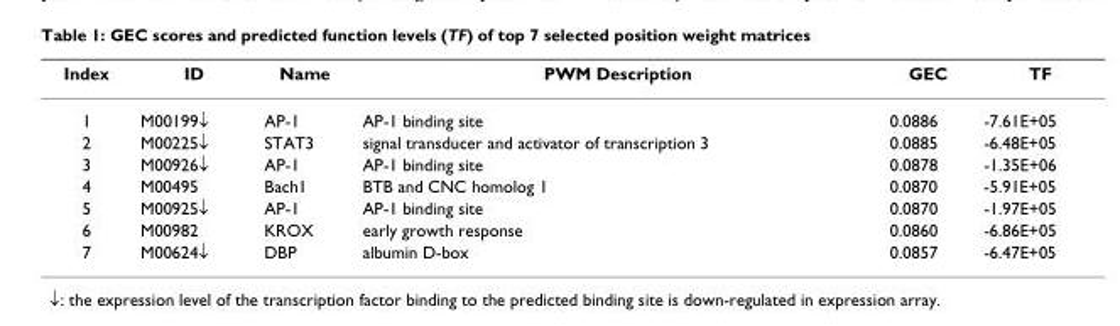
<table><thead><tr><td>Index</td><td>ID</td><td>Name</td><td>PWM Description</td><td>GEC</td><td>TF</td></tr></thead><tbody><tr><td>1</td><td>M00199↓</td><td>AP-1</td><td>AP-1 binding site</td><td>0.0886</td><td>-7.61E+05</td></tr><tr><td>2</td><td>M00225↓</td><td>STAT3</td><td>signal transducer and activator of transcription 3</td><td>0.0885</td><td>-6.48E+05</td></tr><tr><td>3</td><td>M00926↓</td><td>AP-1</td><td>AP-1 binding site</td><td>0.0878</td><td>-1.35E+06</td></tr><tr><td>4</td><td>M00495</td><td>Bach1</td><td>BTB and CNC homolog 1</td><td>0.0870</td><td>-5.91E+05</td></tr><tr><td>5</td><td>M00925↓</td><td>AP-1</td><td>AP-1 binding site</td><td>0.0870</td><td>-1.97E+05</td></tr><tr><td>6</td><td>M00982</td><td>KROX</td><td>early growth response</td><td>0.0860</td><td>-6.86E+05</td></tr><tr><td>7</td><td>M00624↓</td><td>DBP</td><td>albumin D-box</td><td>0.0857</td><td>-6.47E+05</td></tr></tbody></table>